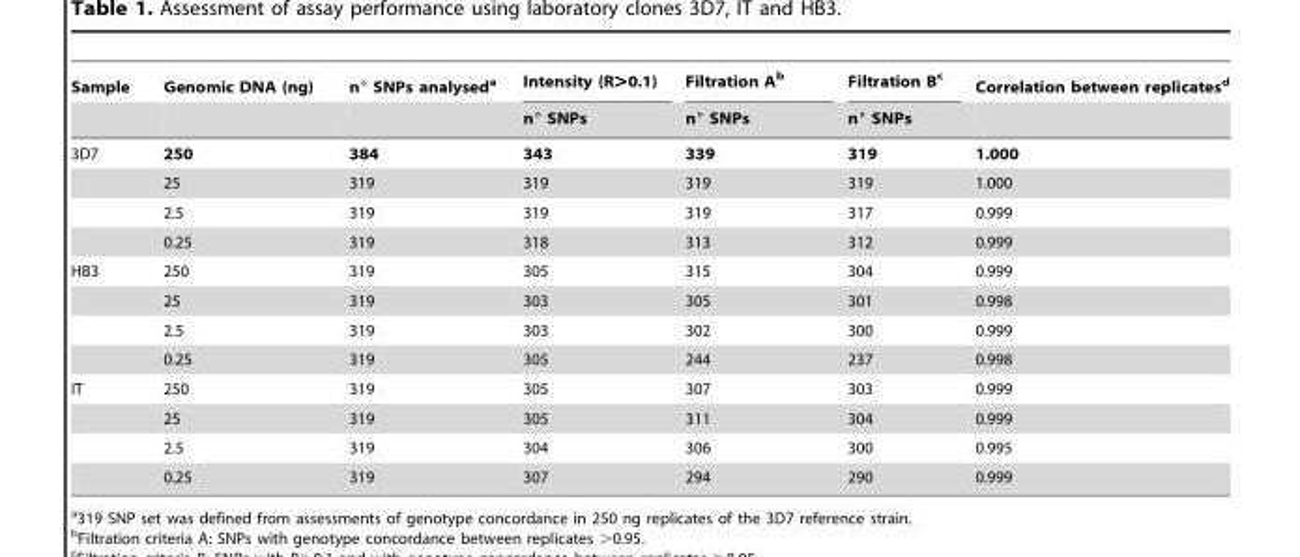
<table><thead><tr><td rowspan="2">Sample</td><td rowspan="2">Genomic DNA (ng)</td><td rowspan="2">n° SNPs analysed<sup>a</sup></td><td rowspan="2">Intensity (R&gt;0.1) n° SNPs</td><td rowspan="2">Filtration A<sup>b</sup> n° SNPs</td><td rowspan="2">Filtration B<sup>c</sup> n° SNPs</td><td rowspan="2">Correlation between replicates<sup>d</sup></td></tr><tr></tr></thead><tbody><tr><td rowspan="4">3D7</td><td>250</td><td>384</td><td>343</td><td>339</td><td>319</td><td>1.000</td></tr><tr><td>25</td><td>319</td><td>319</td><td>319</td><td>319</td><td>1.000</td></tr><tr><td>2.5</td><td>319</td><td>319</td><td>319</td><td>317</td><td>0.999</td></tr><tr><td>0.25</td><td>319</td><td>318</td><td>313</td><td>312</td><td>0.999</td></tr><tr><td rowspan="4">HB3</td><td>250</td><td>319</td><td>305</td><td>315</td><td>304</td><td>0.999</td></tr><tr><td>25</td><td>319</td><td>303</td><td>305</td><td>301</td><td>0.998</td></tr><tr><td>2.5</td><td>319</td><td>303</td><td>302</td><td>300</td><td>0.999</td></tr><tr><td>0.25</td><td>319</td><td>305</td><td>244</td><td>237</td><td>0.998</td></tr><tr><td rowspan="4">IT</td><td>250</td><td>319</td><td>305</td><td>307</td><td>303</td><td>0.999</td></tr><tr><td>25</td><td>319</td><td>305</td><td>311</td><td>304</td><td>0.999</td></tr><tr><td>2.5</td><td>319</td><td>304</td><td>306</td><td>300</td><td>0.995</td></tr><tr><td>0.25</td><td>319</td><td>307</td><td>294</td><td>290</td><td>0.999</td></tr></tbody></table>